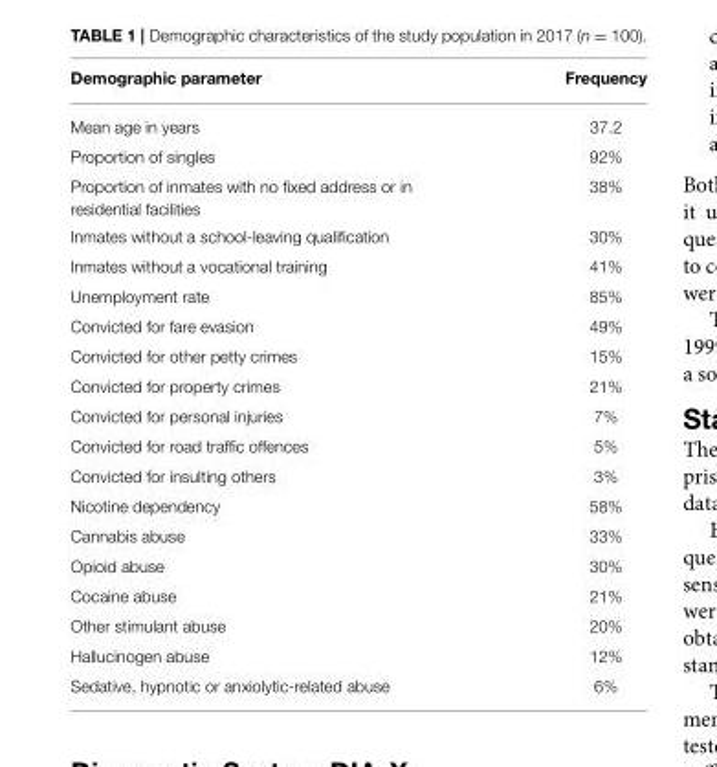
<table><thead><tr><td>Demographic parameter</td><td>Frequency</td></tr></thead><tbody><tr><td>Mean age in years</td><td>37.2</td></tr><tr><td>Proportion of singles</td><td>92%</td></tr><tr><td>Proportion of inmates with no fixed address or in residential facilities</td><td>38%</td></tr><tr><td>Inmates without a school-leaving qualification</td><td>30%</td></tr><tr><td>Inmates without a vocational training</td><td>41%</td></tr><tr><td>Unemployment rate</td><td>85%</td></tr><tr><td>Convicted for fare evasion</td><td>49%</td></tr><tr><td>Convicted for other petty crimes</td><td>15%</td></tr><tr><td>Convicted for property crimes</td><td>21%</td></tr><tr><td>Convicted for personal injuries</td><td>7%</td></tr><tr><td>Convicted for road traffic offences</td><td>5%</td></tr><tr><td>Convicted for insulting others</td><td>3%</td></tr><tr><td>Nicotine dependency</td><td>58%</td></tr><tr><td>Cannabis abuse</td><td>33%</td></tr><tr><td>Opioid abuse</td><td>30%</td></tr><tr><td>Cocaine abuse</td><td>21%</td></tr><tr><td>Other stimulant abuse</td><td>20%</td></tr><tr><td>Hallucinogen abuse</td><td>12%</td></tr><tr><td>Sedative, hypnotic or anxiolytic-related abuse</td><td>6%</td></tr></tbody></table>